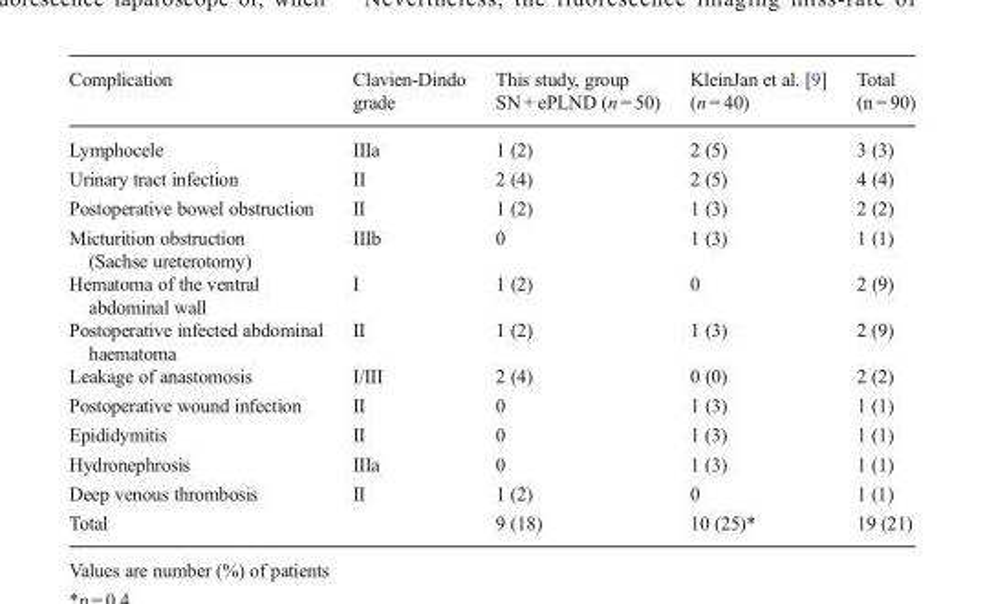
<table><thead><tr><td>Complication</td><td>Clavien-Dindo grade</td><td>This study, group SN + ePLND (n = 50)</td><td>KleinJan et al. [9] (n = 40)</td><td>Total (n = 90)</td></tr></thead><tbody><tr><td>Lymphocele</td><td>IIIa</td><td>1 (2)</td><td>2 (5)</td><td>3 (3)</td></tr><tr><td>Urinary tract infection</td><td>II</td><td>2 (4)</td><td>2 (5)</td><td>4 (4)</td></tr><tr><td>Postoperative bowel obstruction</td><td>II</td><td>1 (2)</td><td>1 (3)</td><td>2 (2)</td></tr><tr><td>Micturition obstruction (Sachse ureterotomy)</td><td>IIIb</td><td>0</td><td>1 (3)</td><td>1 (1)</td></tr><tr><td>Hematoma of the ventral abdominal wall</td><td>I</td><td>1 (2)</td><td>0</td><td>2 (9)</td></tr><tr><td>Postoperative infected abdominal haematoma</td><td>II</td><td>1 (2)</td><td>1 (3)</td><td>2 (9)</td></tr><tr><td>Leakage of anastomosis</td><td>I/III</td><td>2 (4)</td><td>0 (0)</td><td>2 (2)</td></tr><tr><td>Postoperative wound infection</td><td>II</td><td>0</td><td>1 (3)</td><td>1 (1)</td></tr><tr><td>Epididymitis</td><td>II</td><td>0</td><td>1 (3)</td><td>1 (1)</td></tr><tr><td>Hydronephrosis</td><td>IIIa</td><td>0</td><td>1 (3)</td><td>1 (1)</td></tr><tr><td>Deep venous thrombosis</td><td>II</td><td>1 (2)</td><td>0</td><td>1 (1)</td></tr><tr><td colspan="2">Total</td><td>9 (18)</td><td>10 (25)*</td><td>19 (21)</td></tr></tbody></table>